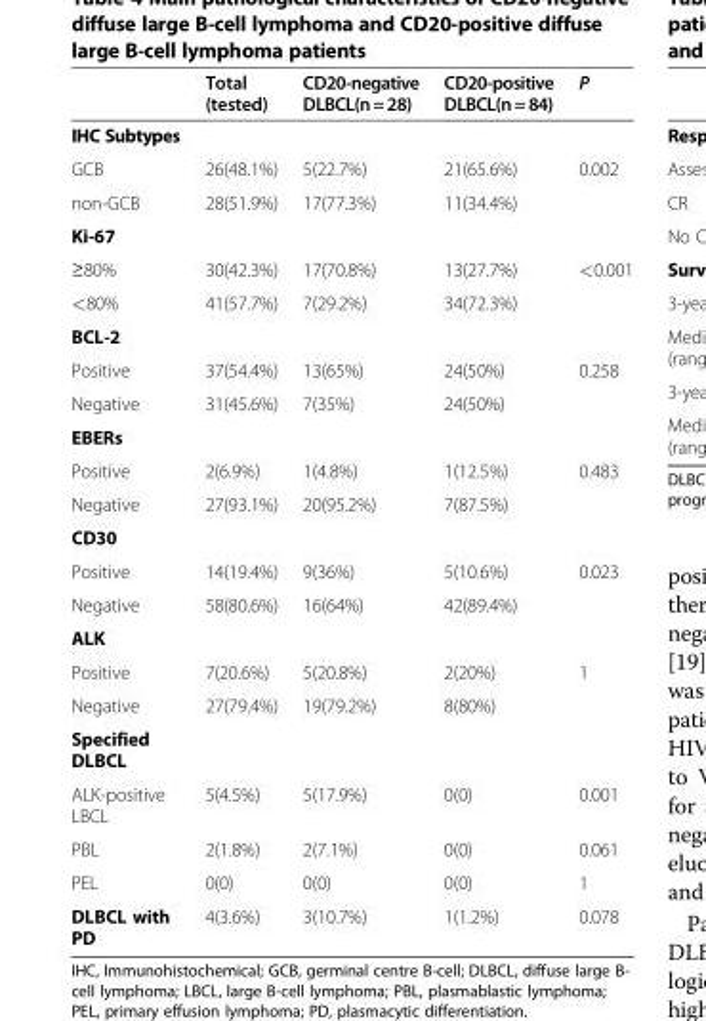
<table><thead><tr><td></td><td>Total (tested)</td><td>CD20-negative DLBCL(n=28)</td><td>CD20-positive DLBCL(n=84)</td><td>P</td></tr></thead><tbody><tr><td colspan="5">IHC Subtypes</td></tr><tr><td>GCB</td><td>26(48.1%)</td><td>5(22.7%)</td><td>21(65.6%)</td><td>0.002</td></tr><tr><td>non-GCB</td><td>28(51.9%)</td><td>17(77.3%)</td><td>11(34.4%)</td><td></td></tr><tr><td colspan="5">Ki-67</td></tr><tr><td>≥80%</td><td>30(42.3%)</td><td>17(70.8%)</td><td>13(27.7%)</td><td>&lt;0.001</td></tr><tr><td>&lt;80%</td><td>41(57.7%)</td><td>7(29.2%)</td><td>34(72.3%)</td><td></td></tr><tr><td colspan="5">BCL-2</td></tr><tr><td>Positive</td><td>37(54.4%)</td><td>13(65%)</td><td>24(50%)</td><td>0.258</td></tr><tr><td>Negative</td><td>31(45.6%)</td><td>7(35%)</td><td>24(50%)</td><td></td></tr><tr><td colspan="5">EBERs</td></tr><tr><td>Positive</td><td>2(6.9%)</td><td>1(4.8%)</td><td>1(12.5%)</td><td>0.483</td></tr><tr><td>Negative</td><td>27(93.1%)</td><td>20(95.2%)</td><td>7(87.5%)</td><td></td></tr><tr><td colspan="5">CD30</td></tr><tr><td>Positive</td><td>14(19.4%)</td><td>9(36%)</td><td>5(10.6%)</td><td>0.023</td></tr><tr><td>Negative</td><td>58(80.6%)</td><td>16(64%)</td><td>42(89.4%)</td><td></td></tr><tr><td colspan="5">ALK</td></tr><tr><td>Positive</td><td>7(20.6%)</td><td>5(20.8%)</td><td>2(20%)</td><td>1</td></tr><tr><td>Negative</td><td>27(79.4%)</td><td>19(79.2%)</td><td>8(80%)</td><td></td></tr><tr><td colspan="5">Specified DLBCL</td></tr><tr><td>ALK-positive LBCL</td><td>5(4.5%)</td><td>5(17.9%)</td><td>0(0)</td><td>0.001</td></tr><tr><td>PBL</td><td>2(1.8%)</td><td>2(7.1%)</td><td>0(0)</td><td>0.061</td></tr><tr><td>PEL</td><td>0(0)</td><td>0(0)</td><td>0(0)</td><td>1</td></tr><tr><td>DLBCL with PD</td><td>4(3.6%)</td><td>3(10.7%)</td><td>1(1.2%)</td><td>0.078</td></tr></tbody></table>